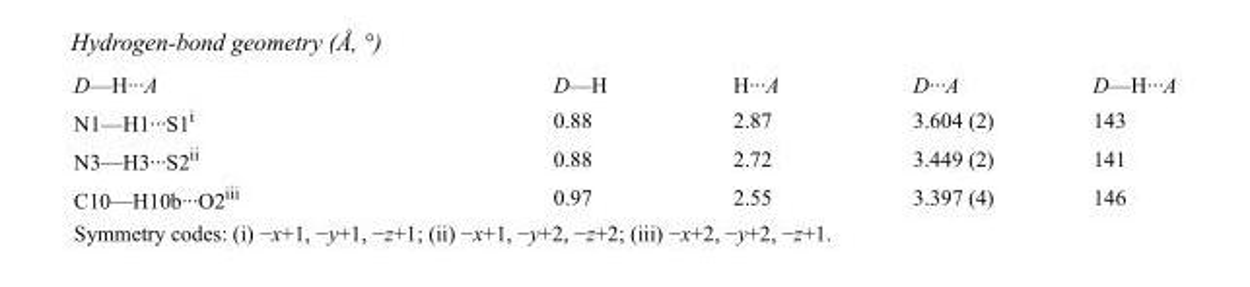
<table><tbody><tr><td>D—H···A</td><td>D—H</td><td>H···A</td><td>D···A</td><td>D—H···A</td></tr><tr><td>N1—H1···S1<sup>i</sup></td><td>0.88</td><td>2.87</td><td>3.604 (2)</td><td>143</td></tr><tr><td>N3—H3···S2<sup>ii</sup></td><td>0.88</td><td>2.72</td><td>3.449 (2)</td><td>141</td></tr><tr><td>C10—H10b···O2<sup>iii</sup></td><td>0.97</td><td>2.55</td><td>3.397 (4)</td><td>146</td></tr></tbody></table>